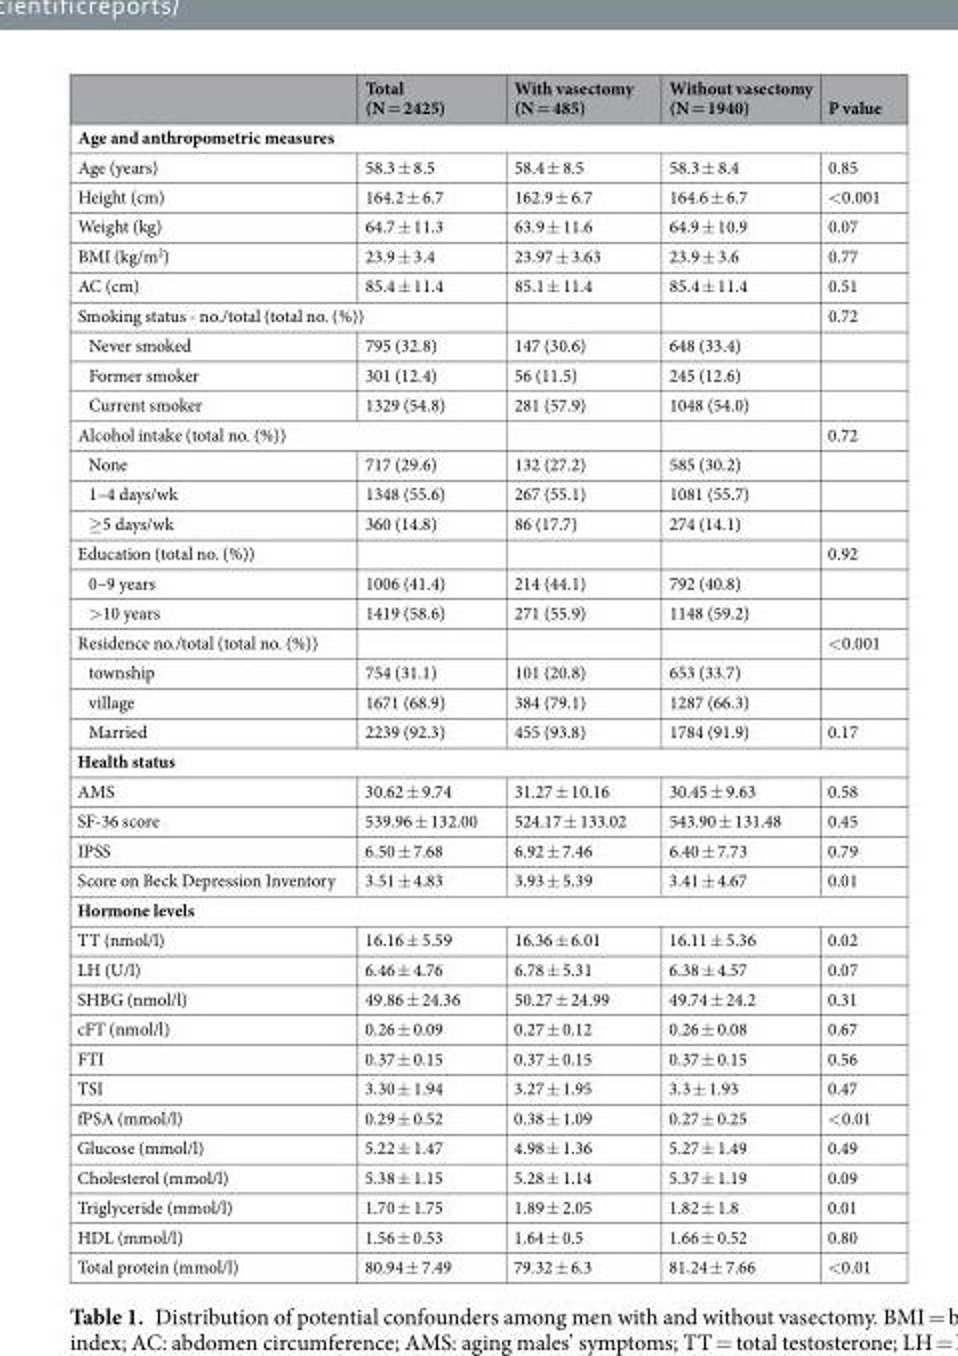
<table><thead><tr><td></td><td>Total (N = 2425)</td><td>With vasectomy (N = 485)</td><td>Without vasectomy (N = 1940)</td><td>P value</td></tr></thead><tbody><tr><td colspan="5">Age and anthropometric measures</td></tr><tr><td>Age (years)</td><td>58.3 ± 8.5</td><td>58.4 ± 8.5</td><td>58.3 ± 8.4</td><td>0.85</td></tr><tr><td>Height (cm)</td><td>164.2 ± 6.7</td><td>162.9 ± 6.7</td><td>164.6 ± 6.7</td><td>&lt;0.001</td></tr><tr><td>Weight (kg)</td><td>64.7 ± 11.3</td><td>63.9 ± 11.6</td><td>64.9 ± 10.9</td><td>0.07</td></tr><tr><td>BMI (kg/m<sup>2</sup>)</td><td>23.9 ± 3.4</td><td>23.97 ± 3.63</td><td>23.9 ± 3.6</td><td>0.77</td></tr><tr><td>AC (cm)</td><td>85.4 ± 11.4</td><td>85.1 ± 11.4</td><td>85.4 ± 11.4</td><td>0.51</td></tr><tr><td colspan="2">Smoking status - no./total (total no. (%))</td><td></td><td></td><td>0.72</td></tr><tr><td>Never smoked</td><td>795 (32.8)</td><td>147 (30.6)</td><td>648 (33.4)</td><td></td></tr><tr><td>Former smoker</td><td>301 (12.4)</td><td>56 (11.5)</td><td>245 (12.6)</td><td></td></tr><tr><td>Current smoker</td><td>1329 (54.8)</td><td>281 (57.9)</td><td>1048 (54.0)</td><td></td></tr><tr><td colspan="2">Alcohol intake (total no. (%))</td><td></td><td></td><td>0.72</td></tr><tr><td>None</td><td>717 (29.6)</td><td>132 (27.2)</td><td>585 (30.2)</td><td></td></tr><tr><td>1–4 days/wk</td><td>1348 (55.6)</td><td>267 (55.1)</td><td>1081 (55.7)</td><td></td></tr><tr><td>≥5 days/wk</td><td>360 (14.8)</td><td>86 (17.7)</td><td>274 (14.1)</td><td></td></tr><tr><td>Education (total no. (%))</td><td></td><td></td><td></td><td>0.92</td></tr><tr><td>0–9 years</td><td>1006 (41.4)</td><td>214 (44.1)</td><td>792 (40.8)</td><td></td></tr><tr><td>&gt;10 years</td><td>1419 (58.6)</td><td>271 (55.9)</td><td>1148 (59.2)</td><td></td></tr><tr><td>Residence no./total (total no. (%))</td><td></td><td></td><td></td><td>&lt;0.001</td></tr><tr><td>township</td><td>754 (31.1)</td><td>101 (20.8)</td><td>653 (33.7)</td><td></td></tr><tr><td>village</td><td>1671 (68.9)</td><td>384 (79.1)</td><td>1287 (66.3)</td><td></td></tr><tr><td>Married</td><td>2239 (92.3)</td><td>455 (93.8)</td><td>1784 (91.9)</td><td>0.17</td></tr><tr><td colspan="5">Health status</td></tr><tr><td>AMS</td><td>30.62 ± 9.74</td><td>31.27 ± 10.16</td><td>30.45 ± 9.63</td><td>0.58</td></tr><tr><td>SF-36 score</td><td>539.96 ± 132.00</td><td>524.17 ± 133.02</td><td>543.90 ± 131.48</td><td>0.45</td></tr><tr><td>IPSS</td><td>6.50 ± 7.68</td><td>6.92 ± 7.46</td><td>6.40 ± 7.73</td><td>0.79</td></tr><tr><td>Score on Beck Depression Inventory</td><td>3.51 ± 4.83</td><td>3.93 ± 5.39</td><td>3.41 ± 4.67</td><td>0.01</td></tr><tr><td colspan="5">Hormone levels</td></tr><tr><td>TT (nmol/l)</td><td>16.16 ± 5.59</td><td>16.36 ± 6.01</td><td>16.11 ± 5.36</td><td>0.02</td></tr><tr><td>LH (U/l)</td><td>6.46 ± 4.76</td><td>6.78 ± 5.31</td><td>6.38 ± 4.57</td><td>0.07</td></tr><tr><td>SHBG (nmol/l)</td><td>49.86 ± 24.36</td><td>50.27 ± 24.99</td><td>49.74 ± 24.2</td><td>0.31</td></tr><tr><td>cFT (nmol/l)</td><td>0.26 ± 0.09</td><td>0.27 ± 0.12</td><td>0.26 ± 0.08</td><td>0.67</td></tr><tr><td>FTI</td><td>0.37 ± 0.15</td><td>0.37 ± 0.15</td><td>0.37 ± 0.15</td><td>0.56</td></tr><tr><td>TSI</td><td>3.30 ± 1.94</td><td>3.27 ± 1.95</td><td>3.3 ± 1.93</td><td>0.47</td></tr><tr><td>fPSA (mmol/l)</td><td>0.29 ± 0.52</td><td>0.38 ± 1.09</td><td>0.27 ± 0.25</td><td>&lt;0.01</td></tr><tr><td>Glucose (mmol/l)</td><td>5.22 ± 1.47</td><td>4.98 ± 1.36</td><td>5.27 ± 1.49</td><td>0.49</td></tr><tr><td>Cholesterol (mmol/l)</td><td>5.38 ± 1.15</td><td>5.28 ± 1.14</td><td>5.37 ± 1.19</td><td>0.09</td></tr><tr><td>Triglyceride (mmol/l)</td><td>1.70 ± 1.75</td><td>1.89 ± 2.05</td><td>1.82 ± 1.8</td><td>0.01</td></tr><tr><td>HDL (mmol/l)</td><td>1.56 ± 0.53</td><td>1.64 ± 0.5</td><td>1.66 ± 0.52</td><td>0.80</td></tr><tr><td>Total protein (mmol/l)</td><td>80.94 ± 7.49</td><td>79.32 ± 6.3</td><td>81.24 ± 7.66</td><td>&lt;0.01</td></tr></tbody></table>